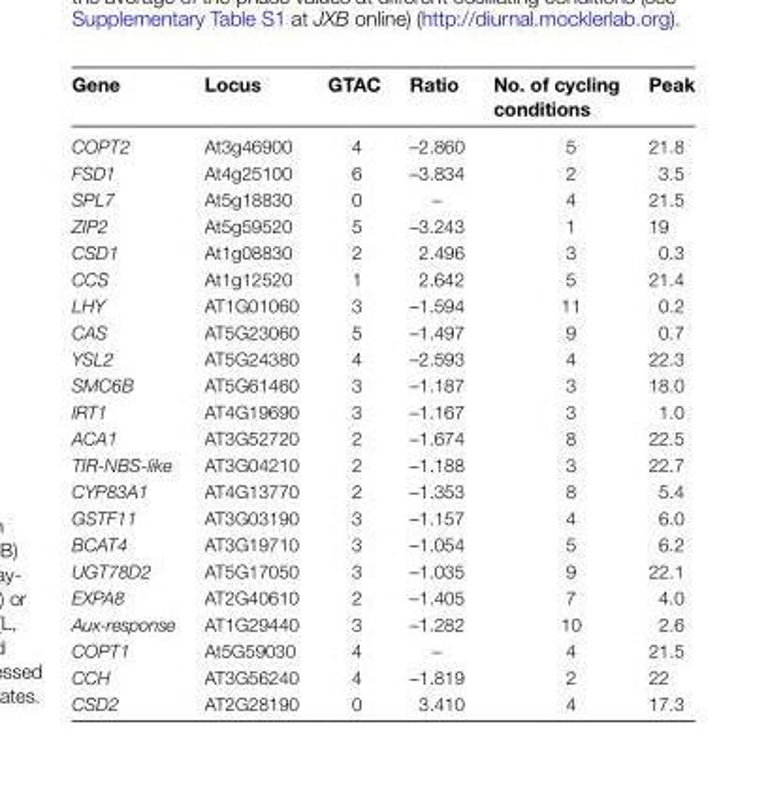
<table><thead><tr><td>Gene</td><td>Locus</td><td>GTAC</td><td>Ratio</td><td>No. of cycling conditions</td><td>Peak</td></tr></thead><tbody><tr><td>COPT2</td><td>At3g46900</td><td>4</td><td>–2.860</td><td>5</td><td>21.8</td></tr><tr><td>FSD1</td><td>At4g25100</td><td>6</td><td>–3.834</td><td>2</td><td>3.5</td></tr><tr><td>SPL7</td><td>At5g18830</td><td>0</td><td>–</td><td>4</td><td>21.5</td></tr><tr><td>ZIP2</td><td>At5g59520</td><td>5</td><td>–3.243</td><td>1</td><td>19</td></tr><tr><td>CSD1</td><td>At1g08830</td><td>2</td><td>2.496</td><td>3</td><td>0.3</td></tr><tr><td>CCS</td><td>At1g12520</td><td>1</td><td>2.642</td><td>5</td><td>21.4</td></tr><tr><td>LHY</td><td>AT1G01060</td><td>3</td><td>–1.594</td><td>11</td><td>0.2</td></tr><tr><td>CAS</td><td>AT5G23060</td><td>5</td><td>–1.497</td><td>9</td><td>0.7</td></tr><tr><td>YSL2</td><td>AT5G24380</td><td>4</td><td>–2.593</td><td>4</td><td>22.3</td></tr><tr><td>SMC6B</td><td>AT5G61460</td><td>3</td><td>–1.187</td><td>3</td><td>18.0</td></tr><tr><td>IRT1</td><td>AT4G19690</td><td>3</td><td>–1.167</td><td>3</td><td>1.0</td></tr><tr><td>ACA1</td><td>AT3G52720</td><td>2</td><td>–1.674</td><td>8</td><td>22.5</td></tr><tr><td>TIR-NBS-like</td><td>AT3G04210</td><td>2</td><td>–1.188</td><td>3</td><td>22.7</td></tr><tr><td>CYP83A1</td><td>AT4G13770</td><td>2</td><td>–1.353</td><td>8</td><td>5.4</td></tr><tr><td>GSTF11</td><td>AT3G03190</td><td>3</td><td>–1.157</td><td>4</td><td>6.0</td></tr><tr><td>BCAT4</td><td>AT3G19710</td><td>3</td><td>–1.054</td><td>5</td><td>6.2</td></tr><tr><td>UGT78D2</td><td>AT5G17050</td><td>3</td><td>–1.035</td><td>9</td><td>22.1</td></tr><tr><td>EXPA8</td><td>AT2G40610</td><td>2</td><td>–1.405</td><td>7</td><td>4.0</td></tr><tr><td>Aux-response</td><td>AT1G29440</td><td>3</td><td>–1.282</td><td>10</td><td>2.6</td></tr><tr><td>COPT1</td><td>At5G59030</td><td>4</td><td>–</td><td>4</td><td>21.5</td></tr><tr><td>CCH</td><td>AT3G56240</td><td>4</td><td>–1.819</td><td>2</td><td>22</td></tr><tr><td>CSD2</td><td>AT2G28190</td><td>0</td><td>3.410</td><td>4</td><td>17.3</td></tr></tbody></table>